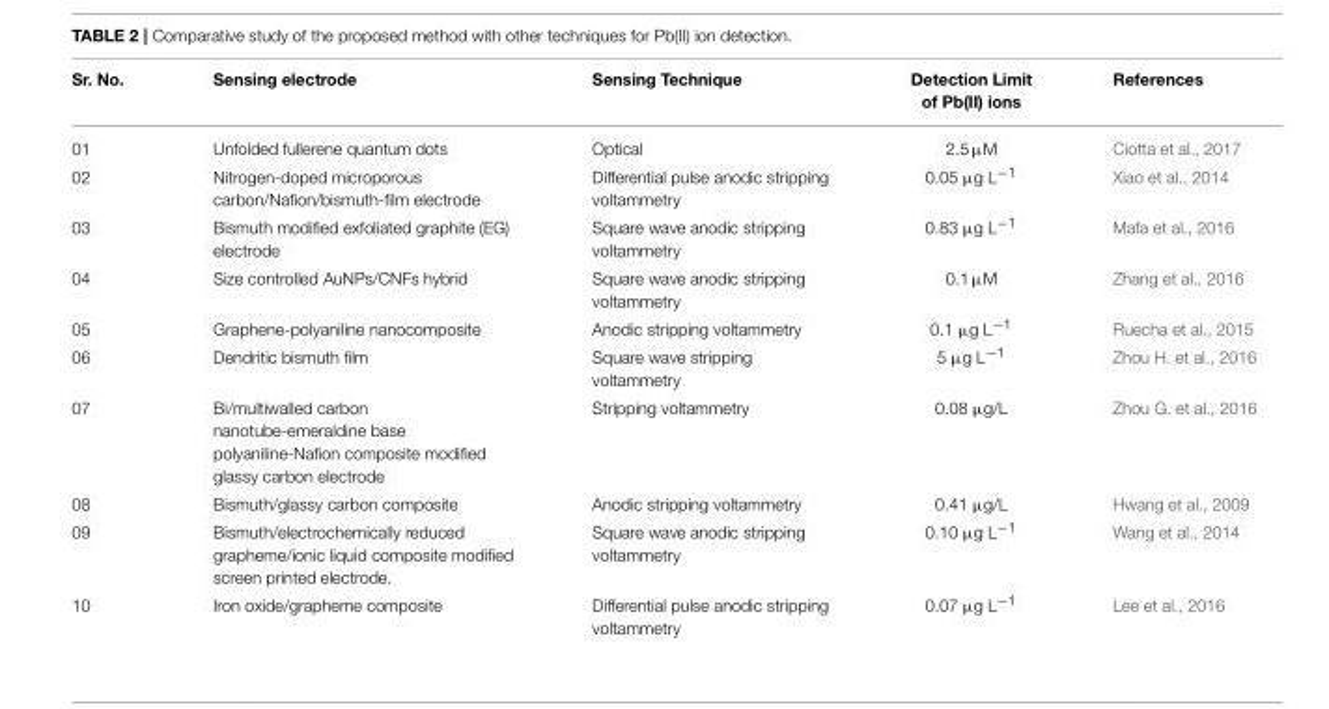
<table><thead><tr><td>Sr. No.</td><td>Sensing electrode</td><td>Sensing Technique</td><td>Detection Limit of Pb(II) ions</td><td>References</td></tr></thead><tbody><tr><td>01</td><td>Unfolded fullerene quantum dots</td><td>Optical</td><td>2.5 µM</td><td>Ciotta et al., 2017</td></tr><tr><td>02</td><td>Nitrogen-doped microporous carbon/Nafion/bismuth-film electrode</td><td>Differential pulse anodic stripping voltammetry</td><td>0.05 µg L<sup>−1</sup></td><td>Xiao et al., 2014</td></tr><tr><td>03</td><td>Bismuth modified exfoliated graphite (EG) electrode</td><td>Square wave anodic stripping voltammetry</td><td>0.83 µg L<sup>−1</sup></td><td>Mafa et al., 2016</td></tr><tr><td>04</td><td>Size controlled AuNPs/CNFs hybrid</td><td>Square wave anodic stripping voltammetry</td><td>0.1 µM</td><td>Zhang et al., 2016</td></tr><tr><td>05</td><td>Graphene-polyaniline nanocomposite</td><td>Anodic stripping voltammetry</td><td>0.1 µg L<sup>−1</sup></td><td>Ruecha et al., 2015</td></tr><tr><td>06</td><td>Dendritic bismuth film</td><td>Square wave stripping voltammetry</td><td>5 µg L<sup>−1</sup></td><td>Zhou H. et al., 2016</td></tr><tr><td>07</td><td>Bi/multiwalled carbon nanotube-emeraldine base polyaniline-Nafion composite modified glassy carbon electrode</td><td>Stripping voltammetry</td><td>0.08 µg/L</td><td>Zhou G. et al., 2016</td></tr><tr><td>08</td><td>Bismuth/glassy carbon composite</td><td>Anodic stripping voltammetry</td><td>0.41 µg/L</td><td>Hwang et al., 2009</td></tr><tr><td>09</td><td>Bismuth/electrochemically reduced grapheme/ionic liquid composite modified screen printed electrode.</td><td>Square wave anodic stripping voltammetry</td><td>0.10 µg L<sup>−1</sup></td><td>Wang et al., 2014</td></tr><tr><td>10</td><td>Iron oxide/grapheme composite</td><td>Differential pulse anodic stripping voltammetry</td><td>0.07 µg L<sup>−1</sup></td><td>Lee et al., 2016</td></tr></tbody></table>